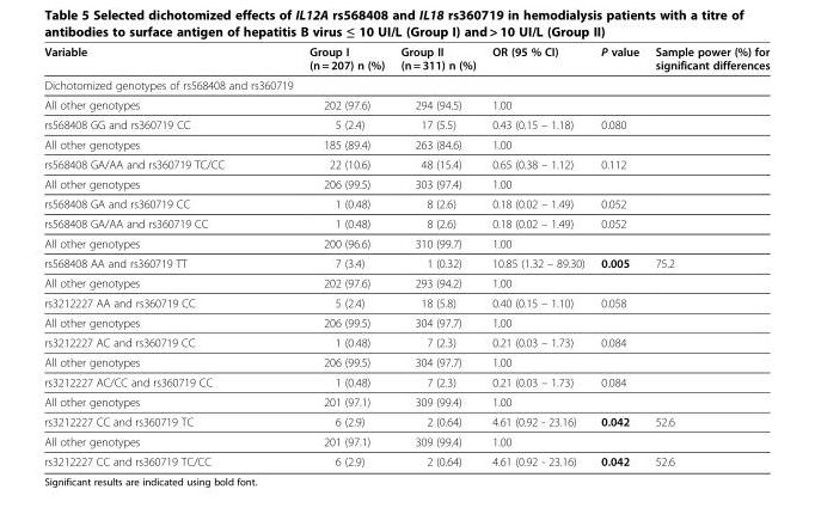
<table><thead><tr><td>Variable</td><td>Group I (n = 207) n (%)</td><td>Group II (n = 311) n (%)</td><td>OR (95 % CI)</td><td>P value</td><td>Sample power (%) for significant differences</td></tr></thead><tbody><tr><td colspan="6">Dichotomized genotypes of rs568408 and rs360719</td></tr><tr><td>All other genotypes</td><td>202 (97.6)</td><td>294 (94.5)</td><td>1.00</td><td></td><td></td></tr><tr><td>rs568408 GG and rs360719 CC</td><td>5 (2.4)</td><td>17 (5.5)</td><td>0.43 (0.15 – 1.18)</td><td>0.080</td><td></td></tr><tr><td>All other genotypes</td><td>185 (89.4)</td><td>263 (84.6)</td><td>1.00</td><td></td><td></td></tr><tr><td>rs568408 GA/AA and rs360719 TC/CC</td><td>22 (10.6)</td><td>48 (15.4)</td><td>0.65 (0.38 – 1.12)</td><td>0.112</td><td></td></tr><tr><td>All other genotypes</td><td>206 (99.5)</td><td>303 (97.4)</td><td>1.00</td><td></td><td></td></tr><tr><td>rs568408 GA and rs360719 CC</td><td>1 (0.48)</td><td>8 (2.6)</td><td>0.18 (0.02 – 1.49)</td><td>0.052</td><td></td></tr><tr><td>rs568408 GA/AA and rs360719 CC</td><td>1 (0.48)</td><td>8 (2.6)</td><td>0.18 (0.02 – 1.49)</td><td>0.052</td><td></td></tr><tr><td>All other genotypes</td><td>200 (96.6)</td><td>310 (99.7)</td><td>1.00</td><td></td><td></td></tr><tr><td>rs568408 AA and rs360719 TT</td><td>7 (3.4)</td><td>1 (0.32)</td><td>10.85 (1.32 – 89.30)</td><td>0.005</td><td>75.2</td></tr><tr><td>All other genotypes</td><td>202 (97.6)</td><td>293 (94.2)</td><td>1.00</td><td></td><td></td></tr><tr><td>rs3212227 AA and rs360719 CC</td><td>5 (2.4)</td><td>18 (5.8)</td><td>0.40 (0.15 – 1.10)</td><td>0.058</td><td></td></tr><tr><td>All other genotypes</td><td>206 (99.5)</td><td>304 (97.7)</td><td>1.00</td><td></td><td></td></tr><tr><td>rs3212227 AC and rs360719 CC</td><td>1 (0.48)</td><td>7 (2.3)</td><td>0.21 (0.03 – 1.73)</td><td>0.084</td><td></td></tr><tr><td>All other genotypes</td><td>206 (99.5)</td><td>304 (97.7)</td><td>1.00</td><td></td><td></td></tr><tr><td>rs3212227 AC/CC and rs360719 CC</td><td>1 (0.48)</td><td>7 (2.3)</td><td>0.21 (0.03 – 1.73)</td><td>0.084</td><td></td></tr><tr><td>All other genotypes</td><td>201 (97.1)</td><td>309 (99.4)</td><td>1.00</td><td></td><td></td></tr><tr><td>rs3212227 CC and rs360719 TC</td><td>6 (2.9)</td><td>2 (0.64)</td><td>4.61 (0.92 - 23.16)</td><td>0.042</td><td>52.6</td></tr><tr><td>All other genotypes</td><td>201 (97.1)</td><td>309 (99.4)</td><td>1.00</td><td></td><td></td></tr><tr><td>rs3212227 CC and rs360719 TC/CC</td><td>6 (2.9)</td><td>2 (0.64)</td><td>4.61 (0.92 - 23.16)</td><td>0.042</td><td>52.6</td></tr></tbody></table>